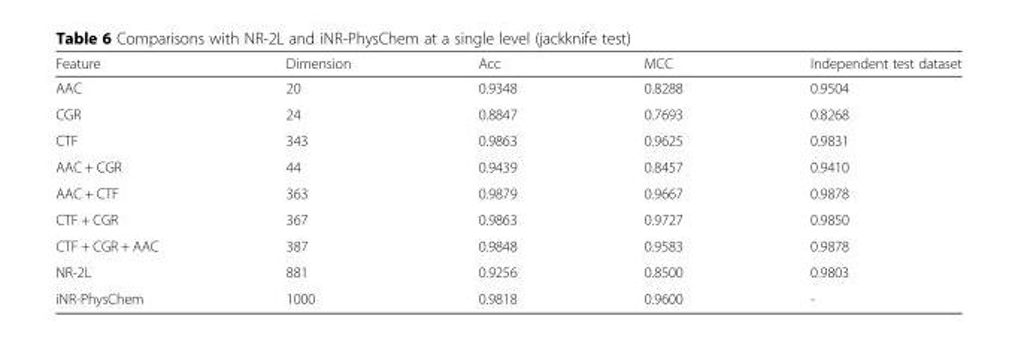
<table><thead><tr><td>Feature</td><td>Dimension</td><td>Acc</td><td>MCC</td><td>Independent test dataset</td></tr></thead><tbody><tr><td>AAC</td><td>20</td><td>0.9348</td><td>0.8288</td><td>0.9504</td></tr><tr><td>CGR</td><td>24</td><td>0.8847</td><td>0.7693</td><td>0.8268</td></tr><tr><td>CTF</td><td>343</td><td>0.9863</td><td>0.9625</td><td>0.9831</td></tr><tr><td>AAC + CGR</td><td>44</td><td>0.9439</td><td>0.8457</td><td>0.9410</td></tr><tr><td>AAC + CTF</td><td>363</td><td>0.9879</td><td>0.9667</td><td>0.9878</td></tr><tr><td>CTF + CGR</td><td>367</td><td>0.9863</td><td>0.9727</td><td>0.9850</td></tr><tr><td>CTF + CGR + AAC</td><td>387</td><td>0.9848</td><td>0.9583</td><td>0.9878</td></tr><tr><td>NR-2L</td><td>881</td><td>0.9256</td><td>0.8500</td><td>0.9803</td></tr><tr><td>iNR-PhysChem</td><td>1000</td><td>0.9818</td><td>0.9600</td><td>-</td></tr></tbody></table>